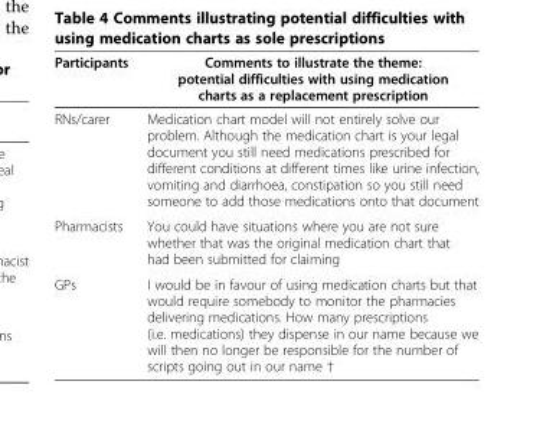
<table><thead><tr><td>Participants</td><td>Comments to illustrate the theme: potential difficulties with using medication charts as a replacement prescription</td></tr></thead><tbody><tr><td>RNs/carer</td><td>Medication chart model will not entirely solve our problem. Although the medication chart is your legal document you still need medications prescribed for different conditions at different times like urine infection, vomiting and diarrhoea, constipation so you still need someone to add those medications onto that document</td></tr><tr><td>Pharmacists</td><td>You could have situations where you are not sure whether that was the original medication chart that had been submitted for claiming</td></tr><tr><td>GPs</td><td>I would be in favour of using medication charts but that would require somebody to monitor the pharmacies delivering medications. How many prescriptions (i.e. medications) they dispense in our name because we will then no longer be responsible for the number of scripts going out in our name †</td></tr></tbody></table>